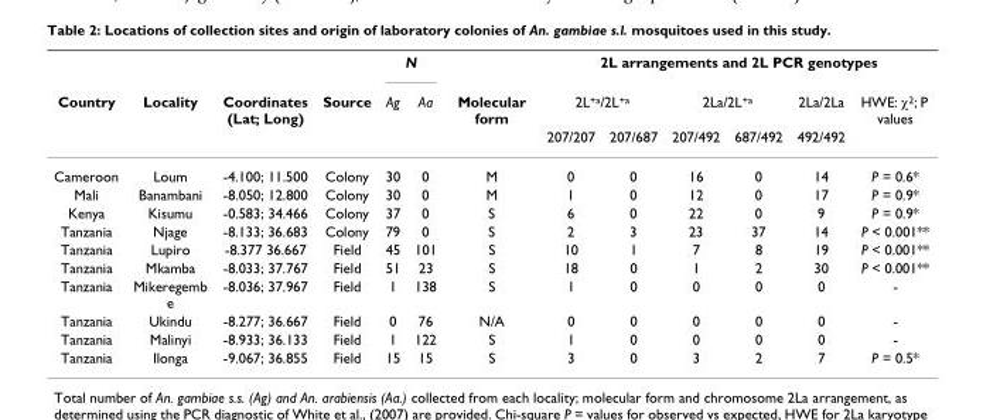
<table><thead><tr><td rowspan="3">Country</td><td rowspan="3">Locality</td><td rowspan="3">Coordinates (Lat; Long)</td><td rowspan="3">Source</td><td colspan="2">N</td><td rowspan="3">Molecular form</td><td colspan="6">2L arrangements and 2L PCR genotypes</td></tr><tr><td rowspan="2">Ag</td><td rowspan="2">Aa</td><td colspan="2">2L<sup>+a</sup>/2L<sup>+a</sup></td><td colspan="2">2La/2L<sup>+a</sup></td><td rowspan="2">2La/2La 492/492</td><td rowspan="2">HWE: χ<sup>2</sup>; P values</td></tr><tr><td>207/207</td><td>207/687</td><td>207/492</td><td>687/492</td></tr></thead><tbody><tr><td>Cameroon</td><td>Loum</td><td>-4.100; 11.500</td><td>Colony</td><td>30</td><td>0</td><td>M</td><td>0</td><td>0</td><td>16</td><td>0</td><td>14</td><td>P = 0.6*</td></tr><tr><td>Mali</td><td>Banambani</td><td>-8.050; 12.800</td><td>Colony</td><td>30</td><td>0</td><td>M</td><td>1</td><td>0</td><td>12</td><td>0</td><td>17</td><td>P = 0.9*</td></tr><tr><td>Kenya</td><td>Kisumu</td><td>-0.583; 34.466</td><td>Colony</td><td>37</td><td>0</td><td>S</td><td>6</td><td>0</td><td>22</td><td>0</td><td>9</td><td>P = 0.9*</td></tr><tr><td>Tanzania</td><td>Njage</td><td>-8.133; 36.683</td><td>Colony</td><td>79</td><td>0</td><td>S</td><td>2</td><td>3</td><td>23</td><td>37</td><td>14</td><td>P &lt; 0.001**</td></tr><tr><td>Tanzania</td><td>Lupiro</td><td>-8.377 36.667</td><td>Field</td><td>45</td><td>101</td><td>S</td><td>10</td><td>1</td><td>7</td><td>8</td><td>19</td><td>P &lt; 0.001**</td></tr><tr><td>Tanzania</td><td>Mkamba</td><td>-8.033; 37.767</td><td>Field</td><td>51</td><td>23</td><td>S</td><td>18</td><td>0</td><td>1</td><td>2</td><td>30</td><td>P &lt; 0.001**</td></tr><tr><td>Tanzania</td><td>Mikeregemb e</td><td>-8.036; 37.967</td><td>Field</td><td>1</td><td>138</td><td>S</td><td>1</td><td>0</td><td>0</td><td>0</td><td>0</td><td>-</td></tr><tr><td>Tanzania</td><td>Ukindu</td><td>-8.277; 36.667</td><td>Field</td><td>0</td><td>76</td><td>N/A</td><td>0</td><td>0</td><td>0</td><td>0</td><td>0</td><td>-</td></tr><tr><td>Tanzania</td><td>Malinyi</td><td>-8.933; 36.133</td><td>Field</td><td>1</td><td>122</td><td>S</td><td>1</td><td>0</td><td>0</td><td>0</td><td>0</td><td>-</td></tr><tr><td>Tanzania</td><td>Ilonga</td><td>-9.067; 36.855</td><td>Field</td><td>15</td><td>15</td><td>S</td><td>3</td><td>0</td><td>3</td><td>2</td><td>7</td><td>P = 0.5*</td></tr></tbody></table>